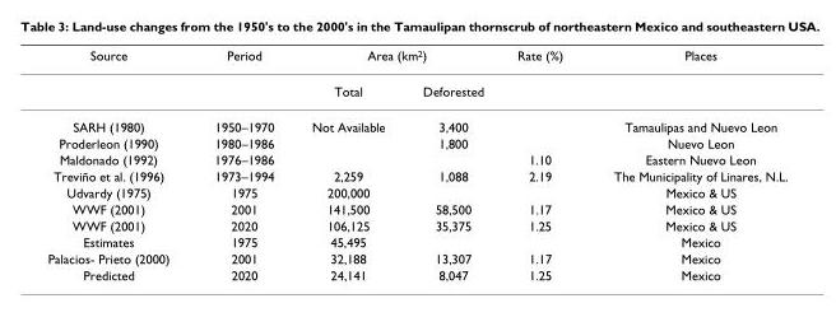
<table><thead><tr><td rowspan="2">Source</td><td rowspan="2">Period</td><td colspan="2">Area (km<sup>2</sup>)</td><td rowspan="2">Rate (%)</td><td rowspan="2">Places</td></tr><tr><td>Total</td><td>Deforested</td></tr></thead><tbody><tr><td>SARH (1980)</td><td>1950–1970</td><td>Not Available</td><td>3,400</td><td></td><td>Tamaulipas and Nuevo Leon</td></tr><tr><td>Proderleon (1990)</td><td>1980–1986</td><td></td><td>1,800</td><td></td><td>Nuevo Leon</td></tr><tr><td>Maldonado (1992)</td><td>1976–1986</td><td></td><td></td><td>1.10</td><td>Eastern Nuevo Leon</td></tr><tr><td>Treviño et al. (1996)</td><td>1973–1994</td><td>2,259</td><td>1,088</td><td>2.19</td><td>The Municipality of Linares, N.L.</td></tr><tr><td>Udvardy (1975)</td><td>1975</td><td>200,000</td><td></td><td></td><td>Mexico &amp; US</td></tr><tr><td>WWF (2001)</td><td>2001</td><td>141,500</td><td>58,500</td><td>1.17</td><td>Mexico &amp; US</td></tr><tr><td>WWF (2001)</td><td>2020</td><td>106,125</td><td>35,375</td><td>1.25</td><td>Mexico &amp; US</td></tr><tr><td>Estimates</td><td>1975</td><td>45,495</td><td></td><td></td><td>Mexico</td></tr><tr><td>Palacios- Prieto (2000)</td><td>2001</td><td>32,188</td><td>13,307</td><td>1.17</td><td>Mexico</td></tr><tr><td>Predicted</td><td>2020</td><td>24,141</td><td>8,047</td><td>1.25</td><td>Mexico</td></tr></tbody></table>